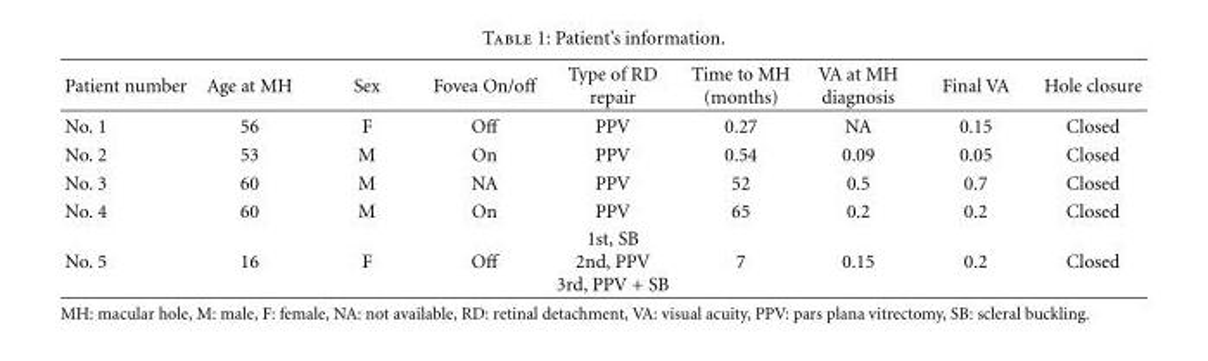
<table><thead><tr><td>Patient number</td><td>Age at MH</td><td>Sex</td><td>Fovea On/off</td><td>Type of RD repair</td><td>Time to MH (months)</td><td>VA at MH diagnosis</td><td>Final VA</td><td>Hole closure</td></tr></thead><tbody><tr><td>No. 1</td><td>56</td><td>F</td><td>Off</td><td>PPV</td><td>0.27</td><td>NA</td><td>0.15</td><td>Closed</td></tr><tr><td>No. 2</td><td>53</td><td>M</td><td>On</td><td>PPV</td><td>0.54</td><td>0.09</td><td>0.05</td><td>Closed</td></tr><tr><td>No. 3</td><td>60</td><td>M</td><td>NA</td><td>PPV</td><td>52</td><td>0.5</td><td>0.7</td><td>Closed</td></tr><tr><td>No. 4</td><td>60</td><td>M</td><td>On</td><td>PPV</td><td>65</td><td>0.2</td><td>0.2</td><td>Closed</td></tr><tr><td>No. 5</td><td>16</td><td>F</td><td>Off</td><td>1st, SB 2nd, PPV 3rd, PPV + SB</td><td>7</td><td>0.15</td><td>0.2</td><td>Closed</td></tr></tbody></table>